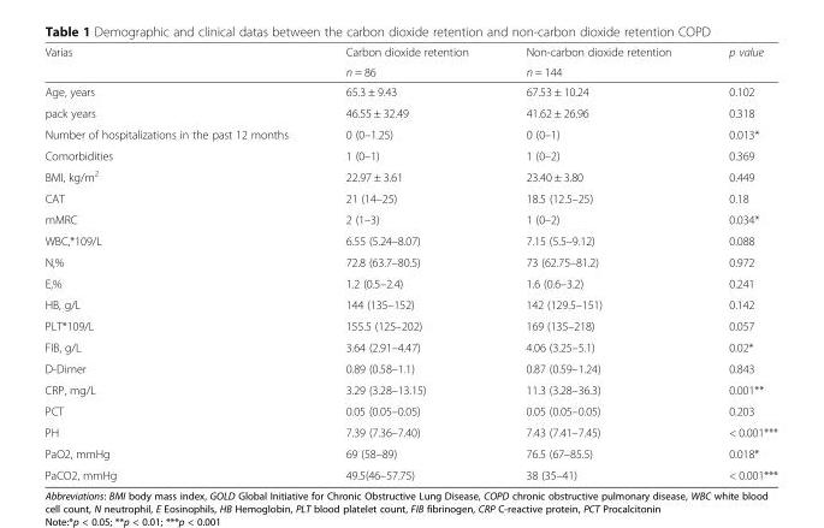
<table><thead><tr><td rowspan="2">Varias</td><td rowspan="2">Carbon dioxide retention n = 86</td><td rowspan="2">Non-carbon dioxide retention n = 144</td><td rowspan="2">p value</td></tr><tr></tr></thead><tbody><tr><td>Age, years</td><td>65.3 ± 9.43</td><td>67.53 ± 10.24</td><td>0.102</td></tr><tr><td>pack years</td><td>46.55 ± 32.49</td><td>41.62 ± 26.96</td><td>0.318</td></tr><tr><td>Number of hospitalizations in the past 12 months</td><td>0 (0–1.25)</td><td>0 (0–1)</td><td>0.013*</td></tr><tr><td>Comorbidities</td><td>1 (0–1)</td><td>1 (0–2)</td><td>0.369</td></tr><tr><td>BMI, kg/m<sup>2</sup></td><td>22.97 ± 3.61</td><td>23.40 ± 3.80</td><td>0.449</td></tr><tr><td>CAT</td><td>21 (14–25)</td><td>18.5 (12.5–25)</td><td>0.18</td></tr><tr><td>mMRC</td><td>2 (1–3)</td><td>1 (0–2)</td><td>0.034*</td></tr><tr><td>WBC,*109/L</td><td>6.55 (5.24–8.07)</td><td>7.15 (5.5–9.12)</td><td>0.088</td></tr><tr><td>N,%</td><td>72.8 (63.7–80.5)</td><td>73 (62.75–81.2)</td><td>0.972</td></tr><tr><td>E,%</td><td>1.2 (0.5–2.4)</td><td>1.6 (0.6–3.2)</td><td>0.241</td></tr><tr><td>HB, g/L</td><td>144 (135–152)</td><td>142 (129.5–151)</td><td>0.142</td></tr><tr><td>PLT*109/L</td><td>155.5 (125–202)</td><td>169 (135–218)</td><td>0.057</td></tr><tr><td>FIB, g/L</td><td>3.64 (2.91–4.47)</td><td>4.06 (3.25–5.1)</td><td>0.02*</td></tr><tr><td>D-Dimer</td><td>0.89 (0.58–1.1)</td><td>0.87 (0.59–1.24)</td><td>0.843</td></tr><tr><td>CRP, mg/L</td><td>3.29 (3.28–13.15)</td><td>11.3 (3.28–36.3)</td><td>0.001**</td></tr><tr><td>PCT</td><td>0.05 (0.05–0.05)</td><td>0.05 (0.05–0.05)</td><td>0.203</td></tr><tr><td>PH</td><td>7.39 (7.36–7.40)</td><td>7.43 (7.41–7.45)</td><td>&lt; 0.001***</td></tr><tr><td>PaO2, mmHg</td><td>69 (58–89)</td><td>76.5 (67–85.5)</td><td>0.018*</td></tr><tr><td>PaCO2, mmHg</td><td>49.5(46–57.75)</td><td>38 (35–41)</td><td>&lt; 0.001***</td></tr></tbody></table>